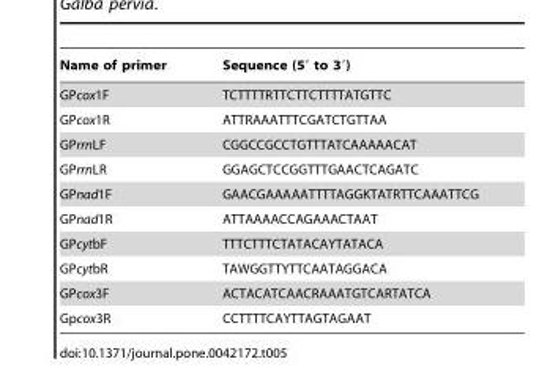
<table><thead><tr><td>Name of primer</td><td>Sequence (5′ to 3′)</td></tr></thead><tbody><tr><td>GPcox1F</td><td>TCTTTTRTTCTTCTTTTATGTTC</td></tr><tr><td>GPcox1R</td><td>ATTRAAATTTCGATCTGTTAA</td></tr><tr><td>GPrrnLF</td><td>CGGCCGCCTGTTTATCAAAAACAT</td></tr><tr><td>GPrrnLR</td><td>GGAGCTCCGGTTTGAACTCAGATC</td></tr><tr><td>GPnad1F</td><td>GAACGAAAAATTTTAGGKTATRTTCAAATTCG</td></tr><tr><td>GPnad1R</td><td>ATTAAAACCAGAAACTAAT</td></tr><tr><td>GPcytbF</td><td>TTTCTTTCTATACAYTATACA</td></tr><tr><td>GPcytbR</td><td>TAWGGTTYTTCAATAGGACA</td></tr><tr><td>GPcox3F</td><td>ACTACATCAACRAAATGTCARTATCA</td></tr><tr><td>Gpcox3R</td><td>CCTTTTCAYTTAGTAGAAT</td></tr></tbody></table>